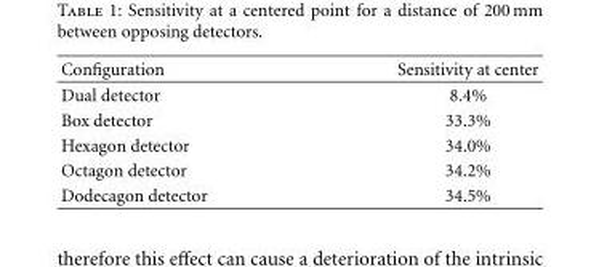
<table><thead><tr><td>Configuration</td><td>Sensitivity at center</td></tr></thead><tbody><tr><td>Dual detector</td><td>8.4%</td></tr><tr><td>Box detector</td><td>33.3%</td></tr><tr><td>Hexagon detector</td><td>34.0%</td></tr><tr><td>Octagon detector</td><td>34.2%</td></tr><tr><td>Dodecagon detector</td><td>34.5%</td></tr></tbody></table>